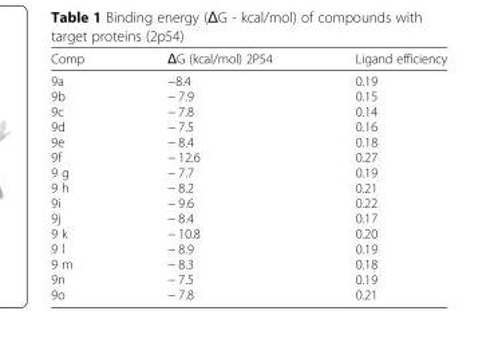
<table><thead><tr><td>Comp</td><td>ΔG (kcal/mol) 2P54</td><td>Ligand efficiency</td></tr></thead><tbody><tr><td>9a 9b 9c 9d 9e 9f 9 g 9 h 9i 9j 9 k 9 l 9 m 9n 9o</td><td>−8.4 − 7.9 − 7.8 − 7.5 − 8.4 − 12.6 − 7.7 − 8.2 − 9.6 − 8.4 − 10.8 − 8.9 − 8.3 − 7.5 − 7.8</td><td>0.19 0.15 0.14 0.16 0.18 0.27 0.19 0.21 0.22 0.17 0.20 0.19 0.18 0.19 0.21</td></tr></tbody></table>